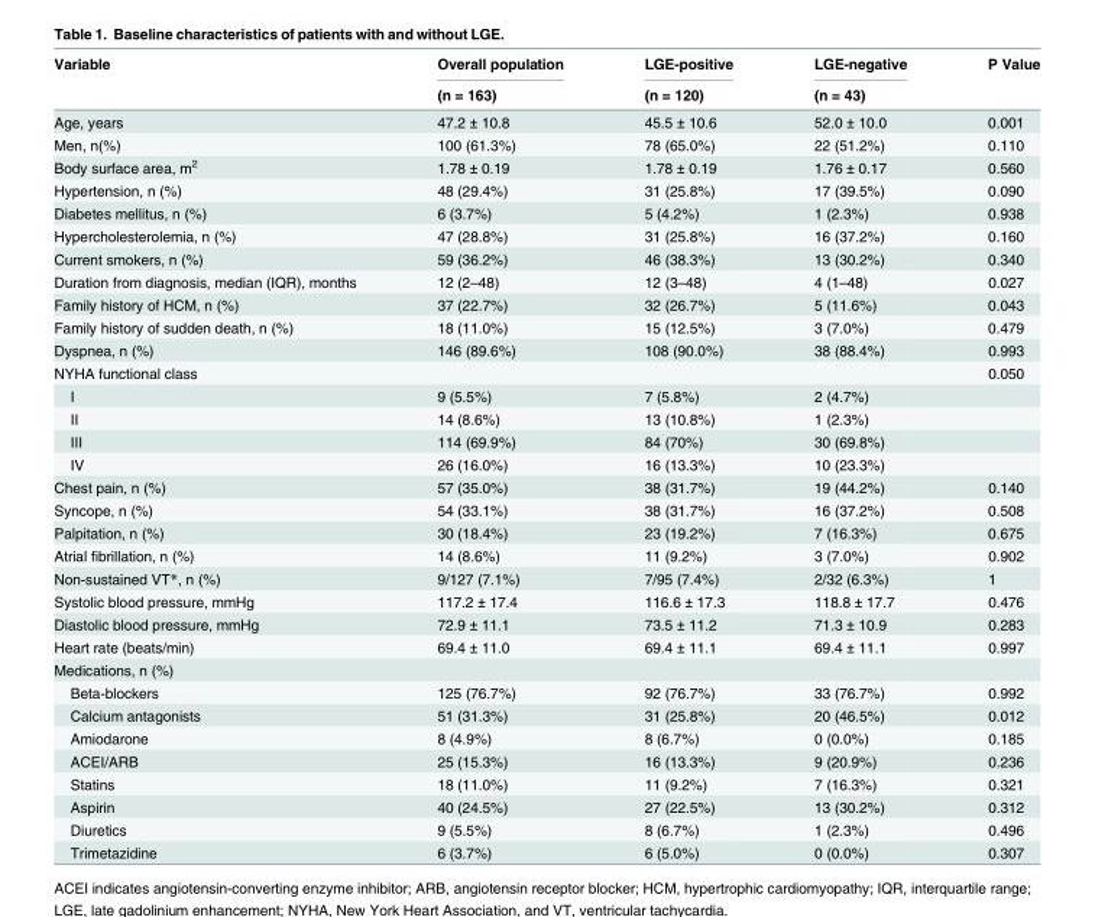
<table><thead><tr><td rowspan="2">Variable</td><td rowspan="2">Overall population (n = 163)</td><td rowspan="2">LGE-positive (n = 120)</td><td rowspan="2">LGE-negative (n = 43)</td><td rowspan="2">P Value</td></tr><tr></tr></thead><tbody><tr><td>Age, years</td><td>47.2 ± 10.8</td><td>45.5 ± 10.6</td><td>52.0 ± 10.0</td><td>0.001</td></tr><tr><td>Men, n(%)</td><td>100 (61.3%)</td><td>78 (65.0%)</td><td>22 (51.2%)</td><td>0.110</td></tr><tr><td>Body surface area, m<sup>2</sup></td><td>1.78 ± 0.19</td><td>1.78 ± 0.19</td><td>1.76 ± 0.17</td><td>0.560</td></tr><tr><td>Hypertension, n (%)</td><td>48 (29.4%)</td><td>31 (25.8%)</td><td>17 (39.5%)</td><td>0.090</td></tr><tr><td>Diabetes mellitus, n (%)</td><td>6 (3.7%)</td><td>5 (4.2%)</td><td>1 (2.3%)</td><td>0.938</td></tr><tr><td>Hypercholesterolemia, n (%)</td><td>47 (28.8%)</td><td>31 (25.8%)</td><td>16 (37.2%)</td><td>0.160</td></tr><tr><td>Current smokers, n (%)</td><td>59 (36.2%)</td><td>46 (38.3%)</td><td>13 (30.2%)</td><td>0.340</td></tr><tr><td>Duration from diagnosis, median (IQR), months</td><td>12 (2–48)</td><td>12 (3–48)</td><td>4 (1–48)</td><td>0.027</td></tr><tr><td>Family history of HCM, n (%)</td><td>37 (22.7%)</td><td>32 (26.7%)</td><td>5 (11.6%)</td><td>0.043</td></tr><tr><td>Family history of sudden death, n (%)</td><td>18 (11.0%)</td><td>15 (12.5%)</td><td>3 (7.0%)</td><td>0.479</td></tr><tr><td>Dyspnea, n (%)</td><td>146 (89.6%)</td><td>108 (90.0%)</td><td>38 (88.4%)</td><td>0.993</td></tr><tr><td>NYHA functional class</td><td></td><td></td><td></td><td>0.050</td></tr><tr><td>I</td><td>9 (5.5%)</td><td>7 (5.8%)</td><td>2 (4.7%)</td><td></td></tr><tr><td>II</td><td>14 (8.6%)</td><td>13 (10.8%)</td><td>1 (2.3%)</td><td></td></tr><tr><td>III</td><td>114 (69.9%)</td><td>84 (70%)</td><td>30 (69.8%)</td><td></td></tr><tr><td>IV</td><td>26 (16.0%)</td><td>16 (13.3%)</td><td>10 (23.3%)</td><td></td></tr><tr><td>Chest pain, n (%)</td><td>57 (35.0%)</td><td>38 (31.7%)</td><td>19 (44.2%)</td><td>0.140</td></tr><tr><td>Syncope, n (%)</td><td>54 (33.1%)</td><td>38 (31.7%)</td><td>16 (37.2%)</td><td>0.508</td></tr><tr><td>Palpitation, n (%)</td><td>30 (18.4%)</td><td>23 (19.2%)</td><td>7 (16.3%)</td><td>0.675</td></tr><tr><td>Atrial fibrillation, n (%)</td><td>14 (8.6%)</td><td>11 (9.2%)</td><td>3 (7.0%)</td><td>0.902</td></tr><tr><td>Non-sustained VT*, n (%)</td><td>9/127 (7.1%)</td><td>7/95 (7.4%)</td><td>2/32 (6.3%)</td><td>1</td></tr><tr><td>Systolic blood pressure, mmHg</td><td>117.2 ± 17.4</td><td>116.6 ± 17.3</td><td>118.8 ± 17.7</td><td>0.476</td></tr><tr><td>Diastolic blood pressure, mmHg</td><td>72.9 ± 11.1</td><td>73.5 ± 11.2</td><td>71.3 ± 10.9</td><td>0.283</td></tr><tr><td>Heart rate (beats/min)</td><td>69.4 ± 11.0</td><td>69.4 ± 11.1</td><td>69.4 ± 11.1</td><td>0.997</td></tr><tr><td colspan="5">Medications, n (%)</td></tr><tr><td>Beta-blockers</td><td>125 (76.7%)</td><td>92 (76.7%)</td><td>33 (76.7%)</td><td>0.992</td></tr><tr><td>Calcium antagonists</td><td>51 (31.3%)</td><td>31 (25.8%)</td><td>20 (46.5%)</td><td>0.012</td></tr><tr><td>Amiodarone</td><td>8 (4.9%)</td><td>8 (6.7%)</td><td>0 (0.0%)</td><td>0.185</td></tr><tr><td>ACEI/ARB</td><td>25 (15.3%)</td><td>16 (13.3%)</td><td>9 (20.9%)</td><td>0.236</td></tr><tr><td>Statins</td><td>18 (11.0%)</td><td>11 (9.2%)</td><td>7 (16.3%)</td><td>0.321</td></tr><tr><td>Aspirin</td><td>40 (24.5%)</td><td>27 (22.5%)</td><td>13 (30.2%)</td><td>0.312</td></tr><tr><td>Diuretics</td><td>9 (5.5%)</td><td>8 (6.7%)</td><td>1 (2.3%)</td><td>0.496</td></tr><tr><td>Trimetazidine</td><td>6 (3.7%)</td><td>6 (5.0%)</td><td>0 (0.0%)</td><td>0.307</td></tr></tbody></table>